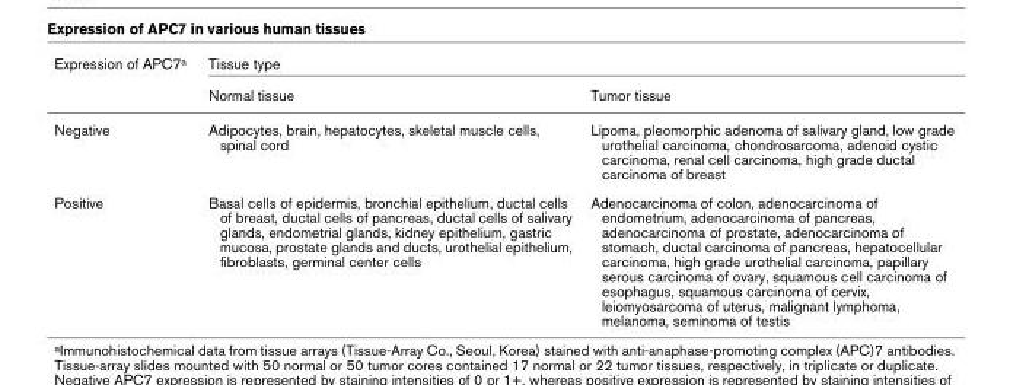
<table><thead><tr><td rowspan="2">Expression of APC7a</td><td colspan="2">Tissue type</td></tr><tr><td>Normal tissue</td><td>Tumor tissue</td></tr></thead><tbody><tr><td>Negative</td><td>Adipocytes, brain, hepatocytes, skeletal muscle cells, spinal cord</td><td>Lipoma, pleomorphic adenoma of salivary gland, low grade urothelial carcinoma, chondrosarcoma, adenoid cystic carcinoma, renal cell carcinoma, high grade ductal carcinoma of breast</td></tr><tr><td>Positive</td><td>Basal cells of epidermis, bronchial epithelium, ductal cells of breast, ductal cells of pancreas, ductal cells of salivary glands, endometrial glands, kidney epithelium, gastric mucosa, prostate glands and ducts, urothelial epithelium, fibroblasts, germinal center cells</td><td>Adenocarcinoma of colon, adenocarcinoma of endometrium, adenocarcinoma of pancreas, adenocarcinoma of prostate, adenocarcinoma of stomach, ductal carcinoma of pancreas, hepatocellular carcinoma, high grade urothelial carcinoma, papillary serous carcinoma of ovary, squamous cell carcinoma of esophagus, squamous carcinoma of cervix, leiomyosarcoma of uterus, malignant lymphoma, melanoma, seminoma of testis</td></tr></tbody></table>